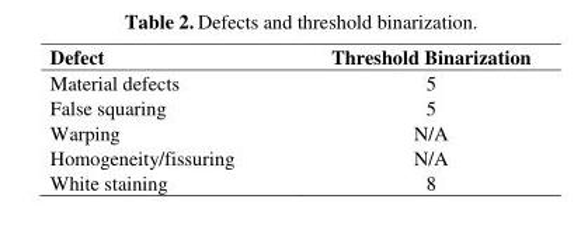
<table><thead><tr><td>Defect</td><td>Threshold Binarization</td></tr></thead><tbody><tr><td>Material defects</td><td>5</td></tr><tr><td>False squaring</td><td>5</td></tr><tr><td>Warping</td><td>N/A</td></tr><tr><td>Homogeneity/fissuring</td><td>N/A</td></tr><tr><td>White staining</td><td>8</td></tr></tbody></table>